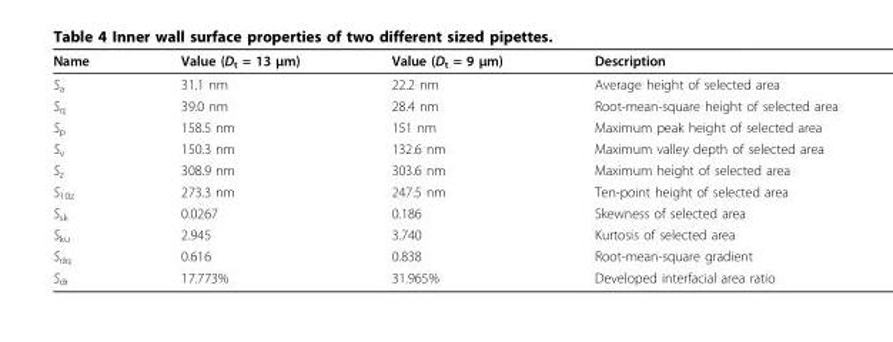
<table><thead><tr><td>Name</td><td>Value (D<sub>t</sub> = 13 μm)</td><td>Value (D<sub>t</sub> = 9 μm)</td><td>Description</td></tr></thead><tbody><tr><td>S<sub>a</sub></td><td>31.1 nm</td><td>22.2 nm</td><td>Average height of selected area</td></tr><tr><td>S<sub>q</sub></td><td>39.0 nm</td><td>28.4 nm</td><td>Root-mean-square height of selected area</td></tr><tr><td>S<sub>p</sub></td><td>158.5 nm</td><td>151 nm</td><td>Maximum peak height of selected area</td></tr><tr><td>S<sub>v</sub></td><td>150.3 nm</td><td>132.6 nm</td><td>Maximum valley depth of selected area</td></tr><tr><td>S<sub>z</sub></td><td>308.9 nm</td><td>303.6 nm</td><td>Maximum height of selected area</td></tr><tr><td>S<sub>10z</sub></td><td>273.3 nm</td><td>247.5 nm</td><td>Ten-point height of selected area</td></tr><tr><td>S<sub>sk</sub></td><td>0.0267</td><td>0.186</td><td>Skewness of selected area</td></tr><tr><td>S<sub>ku</sub></td><td>2.945</td><td>3.740</td><td>Kurtosis of selected area</td></tr><tr><td>S<sub>dq</sub></td><td>0.616</td><td>0.838</td><td>Root-mean-square gradient</td></tr><tr><td>S<sub>dr</sub></td><td>17.773%</td><td>31.965%</td><td>Developed interfacial area ratio</td></tr></tbody></table>